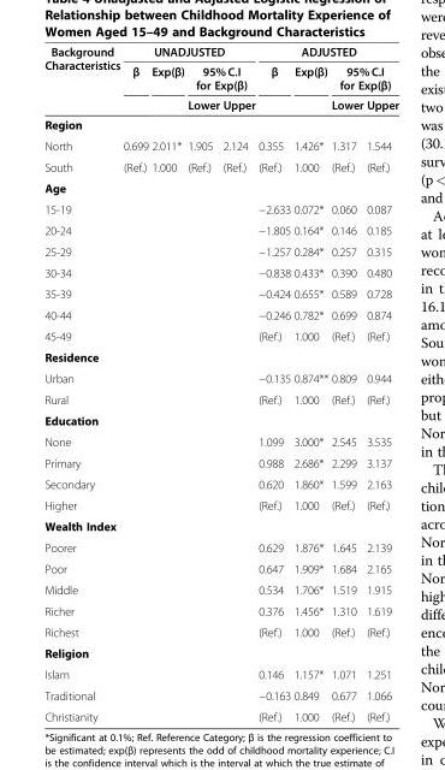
<table><thead><tr><td rowspan="3">Background Characteristics</td><td colspan="4">UNADJUSTED</td><td colspan="4">ADJUSTED</td></tr><tr><td rowspan="2">β</td><td rowspan="2">Exp(β)</td><td colspan="2">95% C.I for Exp(β)</td><td rowspan="2">β</td><td rowspan="2">Exp(β)</td><td colspan="2">95% C.I for Exp(β)</td></tr><tr><td>Lower</td><td>Upper</td><td>Lower</td><td>Upper</td></tr></thead><tbody><tr><td colspan="9">Region</td></tr><tr><td>North</td><td>0.699</td><td>2.011*</td><td>1.905</td><td>2.124</td><td>0.355</td><td>1.426*</td><td>1.317</td><td>1.544</td></tr><tr><td>South</td><td>(Ref.)</td><td>1.000</td><td>(Ref.)</td><td>(Ref.)</td><td>(Ref.)</td><td>1.000</td><td>(Ref.)</td><td>(Ref.)</td></tr><tr><td colspan="9">Age</td></tr><tr><td>15-19</td><td></td><td></td><td></td><td></td><td>−2.633</td><td>0.072*</td><td>0.060</td><td>0.087</td></tr><tr><td>20-24</td><td></td><td></td><td></td><td></td><td>−1.805</td><td>0.164*</td><td>0.146</td><td>0.185</td></tr><tr><td>25-29</td><td></td><td></td><td></td><td></td><td>−1.257</td><td>0.284*</td><td>0.257</td><td>0.315</td></tr><tr><td>30-34</td><td></td><td></td><td></td><td></td><td>−0.838</td><td>0.433*</td><td>0.390</td><td>0.480</td></tr><tr><td>35-39</td><td></td><td></td><td></td><td></td><td>−0.424</td><td>0.655*</td><td>0.589</td><td>0.728</td></tr><tr><td>40-44</td><td></td><td></td><td></td><td></td><td>−0.246</td><td>0.782*</td><td>0.699</td><td>0.874</td></tr><tr><td>45-49</td><td></td><td></td><td></td><td></td><td>(Ref.)</td><td>1.000</td><td>(Ref.)</td><td>(Ref.)</td></tr><tr><td colspan="9">Residence</td></tr><tr><td>Urban</td><td></td><td></td><td></td><td></td><td>−0.135</td><td>0.874**</td><td>0.809</td><td>0.944</td></tr><tr><td>Rural</td><td></td><td></td><td></td><td></td><td>(Ref.)</td><td>1.000</td><td>(Ref.)</td><td>(Ref.)</td></tr><tr><td colspan="9">Education</td></tr><tr><td>None</td><td></td><td></td><td></td><td></td><td>1.099</td><td>3.000*</td><td>2.545</td><td>3.535</td></tr><tr><td>Primary</td><td></td><td></td><td></td><td></td><td>0.988</td><td>2.686*</td><td>2.299</td><td>3.137</td></tr><tr><td>Secondary</td><td></td><td></td><td></td><td></td><td>0.620</td><td>1.860*</td><td>1.599</td><td>2.163</td></tr><tr><td>Higher</td><td></td><td></td><td></td><td></td><td>(Ref.)</td><td>1.000</td><td>(Ref.)</td><td>(Ref.)</td></tr><tr><td colspan="9">Wealth Index</td></tr><tr><td>Poorer</td><td></td><td></td><td></td><td></td><td>0.629</td><td>1.876*</td><td>1.645</td><td>2.139</td></tr><tr><td>Poor</td><td></td><td></td><td></td><td></td><td>0.647</td><td>1.909*</td><td>1.684</td><td>2.165</td></tr><tr><td>Middle</td><td></td><td></td><td></td><td></td><td>0.534</td><td>1.706*</td><td>1.519</td><td>1.915</td></tr><tr><td>Richer</td><td></td><td></td><td></td><td></td><td>0.376</td><td>1.456*</td><td>1.310</td><td>1.619</td></tr><tr><td>Richest</td><td></td><td></td><td></td><td></td><td>(Ref.)</td><td>1.000</td><td>(Ref.)</td><td>(Ref.)</td></tr><tr><td colspan="9">Religion</td></tr><tr><td>Islam</td><td></td><td></td><td></td><td></td><td>0.146</td><td>1.157*</td><td>1.071</td><td>1.251</td></tr><tr><td>Traditional</td><td></td><td></td><td></td><td></td><td>−0.163</td><td>0.849</td><td>0.677</td><td>1.066</td></tr><tr><td>Christianity</td><td></td><td></td><td></td><td></td><td>(Ref.)</td><td>1.000</td><td>(Ref.)</td><td>(Ref.)</td></tr></tbody></table>